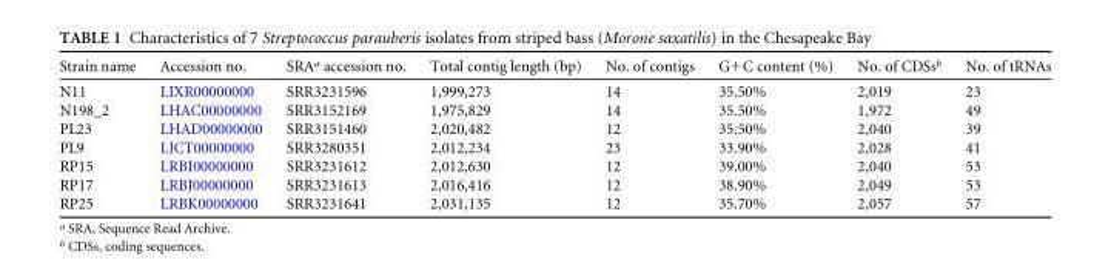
<table><thead><tr><td>Strain name</td><td>Accession no.</td><td>SRAa accession no.</td><td>Total contig length (bp)</td><td>No. of contigs</td><td>G+C content (%)</td><td>No. of CDSsb</td><td>No. of tRNAs</td></tr></thead><tbody><tr><td>N11</td><td>LIXR00000000</td><td>SRR3231596</td><td>1,999,273</td><td>14</td><td>35.50%</td><td>2,019</td><td>23</td></tr><tr><td>N198_2</td><td>LHAC00000000</td><td>SRR3152169</td><td>1,975,829</td><td>14</td><td>35.50%</td><td>1,972</td><td>49</td></tr><tr><td>PL23</td><td>LHAD00000000</td><td>SRR3151460</td><td>2,020,482</td><td>12</td><td>35.50%</td><td>2,040</td><td>39</td></tr><tr><td>PL9</td><td>LJCT00000000</td><td>SRR3280351</td><td>2,012,234</td><td>23</td><td>33.90%</td><td>2,028</td><td>41</td></tr><tr><td>RP15</td><td>LRBI00000000</td><td>SRR3231612</td><td>2,012,630</td><td>12</td><td>39.00%</td><td>2,040</td><td>53</td></tr><tr><td>RP17</td><td>LRBJ00000000</td><td>SRR3231613</td><td>2,016,416</td><td>12</td><td>38.90%</td><td>2,049</td><td>53</td></tr><tr><td>RP25</td><td>LRBK00000000</td><td>SRR3231641</td><td>2,031,135</td><td>12</td><td>35.70%</td><td>2,057</td><td>57</td></tr></tbody></table>